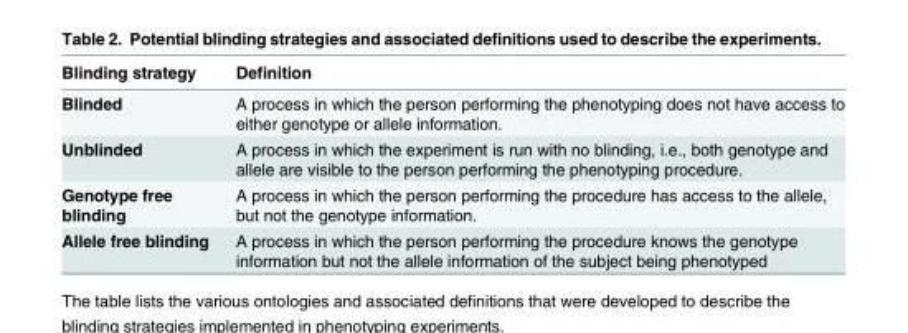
<table><thead><tr><td>Blinding strategy</td><td>Definition</td></tr></thead><tbody><tr><td>Blinded</td><td>A process in which the person performing the phenotyping does not have access to either genotype or allele information.</td></tr><tr><td>Unblinded</td><td>A process in which the experiment is run with no blinding, i.e., both genotype and allele are visible to the person performing the phenotyping procedure.</td></tr><tr><td>Genotype free blinding</td><td>A process in which the person performing the procedure has access to the allele, but not the genotype information.</td></tr><tr><td>Allele free blinding</td><td>A process in which the person performing the procedure knows the genotype information but not the allele information of the subject being phenotyped</td></tr></tbody></table>